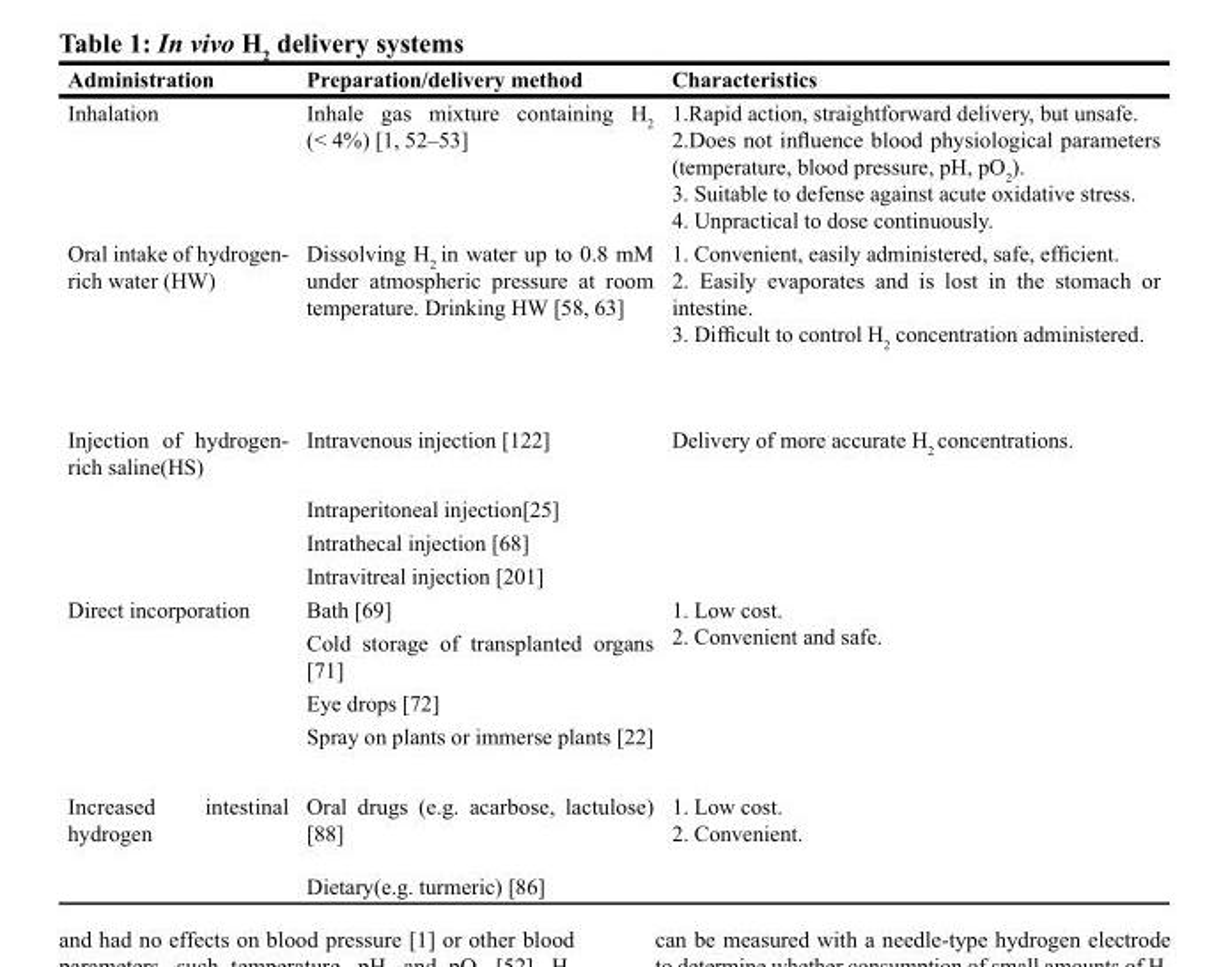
<table><thead><tr><td>Administration</td><td>Preparation/delivery method</td><td>Characteristics</td></tr></thead><tbody><tr><td>Inhalation</td><td>Inhale gas mixture containing H<sub>2</sub> (&lt; 4%) [1, 52–53]</td><td>1.Rapid action, straightforward delivery, but unsafe. 2.Does not influence blood physiological parameters (temperature, blood pressure, pH, pO<sub>2</sub>). 3. Suitable to defense against acute oxidative stress. 4. Unpractical to dose continuously.</td></tr><tr><td>Oral intake of hydrogen- rich water (HW)</td><td>Dissolving H<sub>2</sub> in water up to 0.8 mM under atmospheric pressure at room temperature. Drinking HW [58, 63]</td><td>1. Convenient, easily administered, safe, efficient. 2. Easily evaporates and is lost in the stomach or intestine. 3. Difficult to control H<sub>2</sub> concentration administered.</td></tr><tr><td rowspan="4">Injection of hydrogen- rich saline(HS)</td><td>Intravenous injection [122]</td><td rowspan="4">Delivery of more accurate H<sub>2</sub> concentrations.</td></tr><tr><td>Intraperitoneal injection[25]</td></tr><tr><td>Intrathecal injection [68]</td></tr><tr><td>Intravitreal injection [201]</td></tr><tr><td rowspan="4">Direct incorporation</td><td>Bath [69]</td><td rowspan="4">1. Low cost. 2. Convenient and safe.</td></tr><tr><td>Cold storage of transplanted organs [71]</td></tr><tr><td>Eye drops [72]</td></tr><tr><td>Spray on plants or immerse plants [22]</td></tr><tr><td rowspan="2">Increased intestinal hydrogen</td><td>Oral drugs (e.g. acarbose, lactulose) [88]</td><td rowspan="2">1. Low cost. 2. Convenient.</td></tr><tr><td>Dietary(e.g. turmeric) [86]</td></tr></tbody></table>